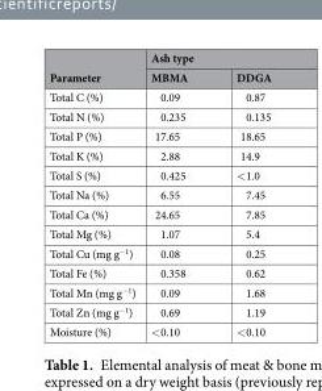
<table><thead><tr><td rowspan="2">Parameter</td><td colspan="2">Ash type</td></tr><tr><td>MBMA</td><td>DDGA</td></tr></thead><tbody><tr><td>Total C (%)</td><td>0.09</td><td>0.87</td></tr><tr><td>Total N (%)</td><td>0.235</td><td>0.135</td></tr><tr><td>Total P (%)</td><td>17.65</td><td>18.65</td></tr><tr><td>Total K (%)</td><td>2.88</td><td>14.9</td></tr><tr><td>Total S (%)</td><td>0.425</td><td>&lt;1.0</td></tr><tr><td>Total Na (%)</td><td>6.55</td><td>7.45</td></tr><tr><td>Total Ca (%)</td><td>24.65</td><td>7.85</td></tr><tr><td>Total Mg (%)</td><td>1.07</td><td>5.4</td></tr><tr><td>Total Cu (mg g<sup>−1</sup>)</td><td>0.08</td><td>0.25</td></tr><tr><td>Total Fe (%)</td><td>0.358</td><td>0.62</td></tr><tr><td>Total Mn (mg g<sup>−1</sup>)</td><td>0.09</td><td>1.68</td></tr><tr><td>Total Zn (mg g<sup>−1</sup>)</td><td>0.69</td><td>1.19</td></tr><tr><td>Moisture (%)</td><td>&lt;0.10</td><td>&lt;0.10</td></tr></tbody></table>